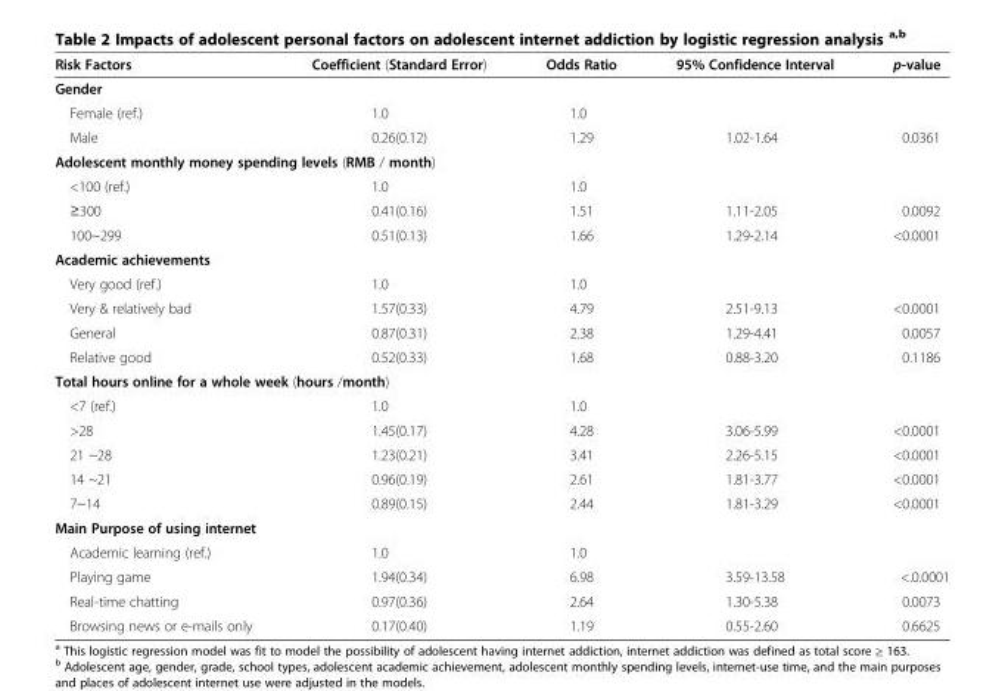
<table><thead><tr><td>Risk Factors</td><td>Coefficient (Standard Error)</td><td>Odds Ratio</td><td>95% Confidence Interval</td><td>p-value</td></tr></thead><tbody><tr><td colspan="5">Gender</td></tr><tr><td>Female (ref.)</td><td>1.0</td><td>1.0</td><td></td><td></td></tr><tr><td>Male</td><td>0.26(0.12)</td><td>1.29</td><td>1.02-1.64</td><td>0.0361</td></tr><tr><td colspan="5">Adolescent monthly money spending levels (RMB / month)</td></tr><tr><td>&lt;100 (ref.)</td><td>1.0</td><td>1.0</td><td></td><td></td></tr><tr><td>≥300</td><td>0.41(0.16)</td><td>1.51</td><td>1.11-2.05</td><td>0.0092</td></tr><tr><td>100~299</td><td>0.51(0.13)</td><td>1.66</td><td>1.29-2.14</td><td>&lt;0.0001</td></tr><tr><td colspan="5">Academic achievements</td></tr><tr><td>Very good (ref.)</td><td>1.0</td><td>1.0</td><td></td><td></td></tr><tr><td>Very &amp; relatively bad</td><td>1.57(0.33)</td><td>4.79</td><td>2.51-9.13</td><td>&lt;0.0001</td></tr><tr><td>General</td><td>0.87(0.31)</td><td>2.38</td><td>1.29-4.41</td><td>0.0057</td></tr><tr><td>Relative good</td><td>0.52(0.33)</td><td>1.68</td><td>0.88-3.20</td><td>0.1186</td></tr><tr><td colspan="5">Total hours online for a whole week (hours /month)</td></tr><tr><td>&lt;7 (ref.)</td><td>1.0</td><td>1.0</td><td></td><td></td></tr><tr><td>&gt;28</td><td>1.45(0.17)</td><td>4.28</td><td>3.06-5.99</td><td>&lt;0.0001</td></tr><tr><td>21 ~28</td><td>1.23(0.21)</td><td>3.41</td><td>2.26-5.15</td><td>&lt;0.0001</td></tr><tr><td>14 ~21</td><td>0.96(0.19)</td><td>2.61</td><td>1.81-3.77</td><td>&lt;0.0001</td></tr><tr><td>7~14</td><td>0.89(0.15)</td><td>2.44</td><td>1.81-3.29</td><td>&lt;0.0001</td></tr><tr><td colspan="5">Main Purpose of using internet</td></tr><tr><td>Academic learning (ref.)</td><td>1.0</td><td>1.0</td><td></td><td></td></tr><tr><td>Playing game</td><td>1.94(0.34)</td><td>6.98</td><td>3.59-13.58</td><td>&lt;.0.0001</td></tr><tr><td>Real-time chatting</td><td>0.97(0.36)</td><td>2.64</td><td>1.30-5.38</td><td>0.0073</td></tr><tr><td>Browsing news or e-mails only</td><td>0.17(0.40)</td><td>1.19</td><td>0.55-2.60</td><td>0.6625</td></tr></tbody></table>